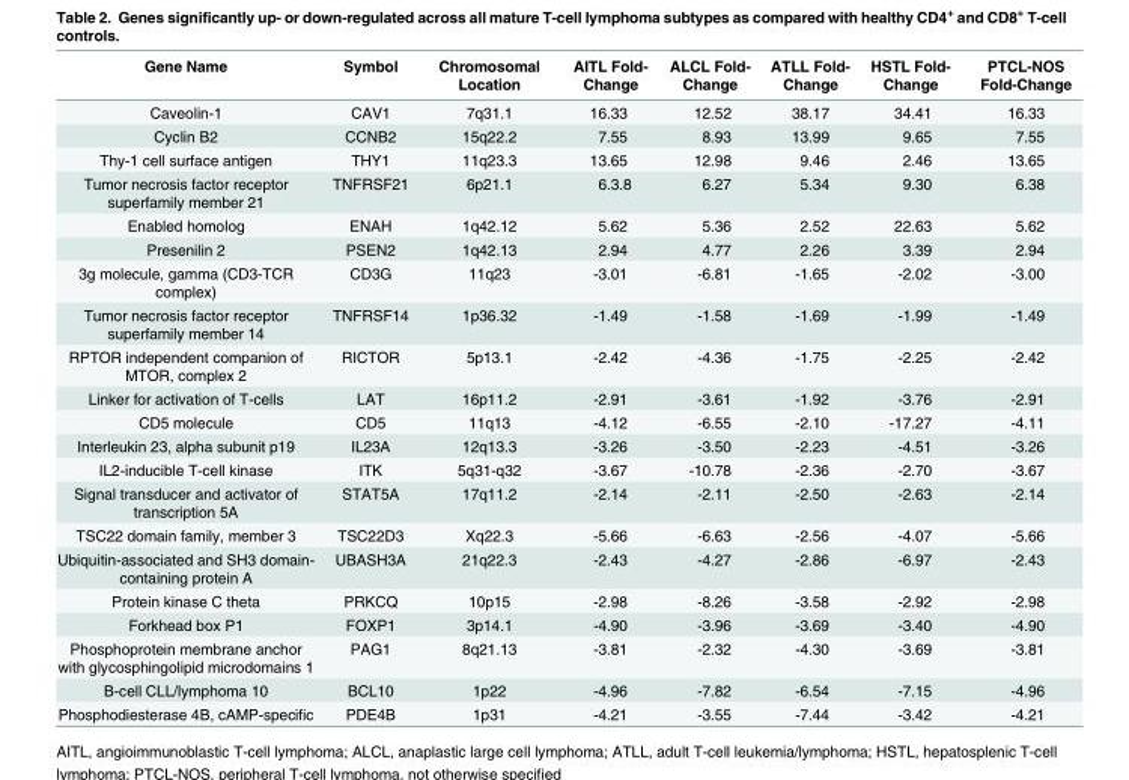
<table><thead><tr><td>Gene Name</td><td>Symbol</td><td>Chromosomal Location</td><td>AITL Fold- Change</td><td>ALCL Fold- Change</td><td>ATLL Fold- Change</td><td>HSTL Fold- Change</td><td>PTCL-NOS Fold-Change</td></tr></thead><tbody><tr><td>Caveolin-1</td><td>CAV1</td><td>7q31.1</td><td>16.33</td><td>12.52</td><td>38.17</td><td>34.41</td><td>16.33</td></tr><tr><td>Cyclin B2</td><td>CCNB2</td><td>15q22.2</td><td>7.55</td><td>8.93</td><td>13.99</td><td>9.65</td><td>7.55</td></tr><tr><td>Thy-1 cell surface antigen</td><td>THY1</td><td>11q23.3</td><td>13.65</td><td>12.98</td><td>9.46</td><td>2.46</td><td>13.65</td></tr><tr><td>Tumor necrosis factor receptor superfamily member 21</td><td>TNFRSF21</td><td>6p21.1</td><td>6.3.8</td><td>6.27</td><td>5.34</td><td>9.30</td><td>6.38</td></tr><tr><td>Enabled homolog</td><td>ENAH</td><td>1q42.12</td><td>5.62</td><td>5.36</td><td>2.52</td><td>22.63</td><td>5.62</td></tr><tr><td>Presenilin 2</td><td>PSEN2</td><td>1q42.13</td><td>2.94</td><td>4.77</td><td>2.26</td><td>3.39</td><td>2.94</td></tr><tr><td>3g molecule, gamma (CD3-TCR complex)</td><td>CD3G</td><td>11q23</td><td>-3.01</td><td>-6.81</td><td>-1.65</td><td>-2.02</td><td>-3.00</td></tr><tr><td>Tumor necrosis factor receptor superfamily member 14</td><td>TNFRSF14</td><td>1p36.32</td><td>-1.49</td><td>-1.58</td><td>-1.69</td><td>-1.99</td><td>-1.49</td></tr><tr><td>RPTOR independent companion of MTOR, complex 2</td><td>RICTOR</td><td>5p13.1</td><td>-2.42</td><td>-4.36</td><td>-1.75</td><td>-2.25</td><td>-2.42</td></tr><tr><td>Linker for activation of T-cells</td><td>LAT</td><td>16p11.2</td><td>-2.91</td><td>-3.61</td><td>-1.92</td><td>-3.76</td><td>-2.91</td></tr><tr><td>CD5 molecule</td><td>CD5</td><td>11q13</td><td>-4.12</td><td>-6.55</td><td>-2.10</td><td>-17.27</td><td>-4.11</td></tr><tr><td>Interleukin 23, alpha subunit p19</td><td>IL23A</td><td>12q13.3</td><td>-3.26</td><td>-3.50</td><td>-2.23</td><td>-4.51</td><td>-3.26</td></tr><tr><td>IL2-inducible T-cell kinase</td><td>ITK</td><td>5q31-q32</td><td>-3.67</td><td>-10.78</td><td>-2.36</td><td>-2.70</td><td>-3.67</td></tr><tr><td>Signal transducer and activator of transcription 5A</td><td>STAT5A</td><td>17q11.2</td><td>-2.14</td><td>-2.11</td><td>-2.50</td><td>-2.63</td><td>-2.14</td></tr><tr><td>TSC22 domain family, member 3</td><td>TSC22D3</td><td>Xq22.3</td><td>-5.66</td><td>-6.63</td><td>-2.56</td><td>-4.07</td><td>-5.66</td></tr><tr><td>Ubiquitin-associated and SH3 domain- containing protein A</td><td>UBASH3A</td><td>21q22.3</td><td>-2.43</td><td>-4.27</td><td>-2.86</td><td>-6.97</td><td>-2.43</td></tr><tr><td>Protein kinase C theta</td><td>PRKCQ</td><td>10p15</td><td>-2.98</td><td>-8.26</td><td>-3.58</td><td>-2.92</td><td>-2.98</td></tr><tr><td>Forkhead box P1</td><td>FOXP1</td><td>3p14.1</td><td>-4.90</td><td>-3.96</td><td>-3.69</td><td>-3.40</td><td>-4.90</td></tr><tr><td>Phosphoprotein membrane anchor with glycosphingolipid microdomains 1</td><td>PAG1</td><td>8q21.13</td><td>-3.81</td><td>-2.32</td><td>-4.30</td><td>-3.69</td><td>-3.81</td></tr><tr><td>B-cell CLL/lymphoma 10</td><td>BCL10</td><td>1p22</td><td>-4.96</td><td>-7.82</td><td>-6.54</td><td>-7.15</td><td>-4.96</td></tr><tr><td>Phosphodiesterase 4B, cAMP-specific</td><td>PDE4B</td><td>1p31</td><td>-4.21</td><td>-3.55</td><td>-7.44</td><td>-3.42</td><td>-4.21</td></tr></tbody></table>